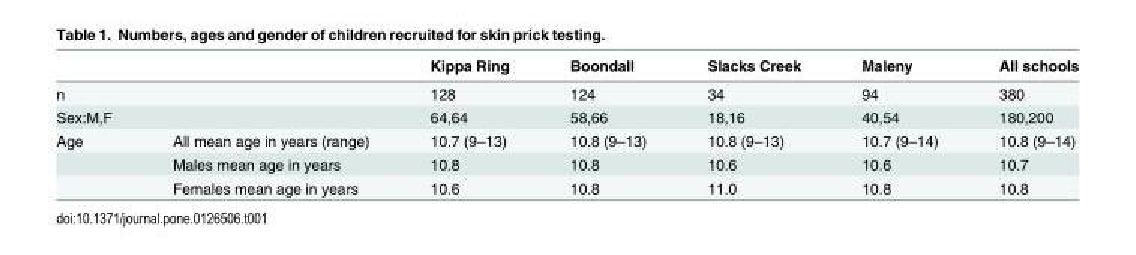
<table><thead><tr><td></td><td></td><td>Kippa Ring</td><td>Boondall</td><td>Slacks Creek</td><td>Maleny</td><td>All schools</td></tr></thead><tbody><tr><td>n</td><td></td><td>128</td><td>124</td><td>34</td><td>94</td><td>380</td></tr><tr><td>Sex:M,F</td><td></td><td>64,64</td><td>58,66</td><td>18,16</td><td>40,54</td><td>180,200</td></tr><tr><td rowspan="3">Age</td><td>All mean age in years (range)</td><td>10.7 (9–13)</td><td>10.8 (9–13)</td><td>10.8 (9–13)</td><td>10.7 (9–14)</td><td>10.8 (9–14)</td></tr><tr><td>Males mean age in years</td><td>10.8</td><td>10.8</td><td>10.6</td><td>10.6</td><td>10.7</td></tr><tr><td>Females mean age in years</td><td>10.6</td><td>10.8</td><td>11.0</td><td>10.8</td><td>10.8</td></tr></tbody></table>